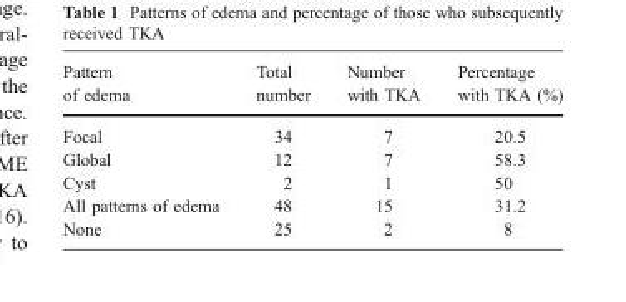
<table><thead><tr><td>Pattern of edema</td><td>Total number</td><td>Number with TKA</td><td>Percentage with TKA (%)</td></tr></thead><tbody><tr><td>Focal</td><td>34</td><td>7</td><td>20.5</td></tr><tr><td>Global</td><td>12</td><td>7</td><td>58.3</td></tr><tr><td>Cyst</td><td>2</td><td>1</td><td>50</td></tr><tr><td>All patterns of edema</td><td>48</td><td>15</td><td>31.2</td></tr><tr><td>None</td><td>25</td><td>2</td><td>8</td></tr></tbody></table>